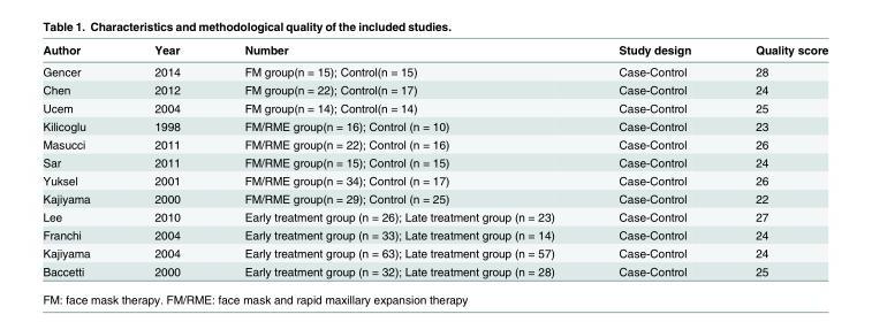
<table><thead><tr><td>Author</td><td>Year</td><td>Number</td><td>Study design</td><td>Quality score</td></tr></thead><tbody><tr><td>Gencer</td><td>2014</td><td>FM group(n = 15); Control(n = 15)</td><td>Case-Control</td><td>28</td></tr><tr><td>Chen</td><td>2012</td><td>FM group(n = 22); Control(n = 17)</td><td>Case-Control</td><td>24</td></tr><tr><td>Ucem</td><td>2004</td><td>FM group(n = 14); Control(n = 14)</td><td>Case-Control</td><td>25</td></tr><tr><td>Kilicoglu</td><td>1998</td><td>FM/RME group(n = 16); Control (n = 10)</td><td>Case-Control</td><td>23</td></tr><tr><td>Masucci</td><td>2011</td><td>FM/RME group(n = 22); Control (n = 16)</td><td>Case-Control</td><td>26</td></tr><tr><td>Sar</td><td>2011</td><td>FM/RME group(n = 15); Control (n = 15)</td><td>Case-Control</td><td>24</td></tr><tr><td>Yuksel</td><td>2001</td><td>FM/RME group(n = 34); Control (n = 17)</td><td>Case-Control</td><td>26</td></tr><tr><td>Kajiyama</td><td>2000</td><td>FM/RME group(n = 29); Control (n = 25)</td><td>Case-Control</td><td>22</td></tr><tr><td>Lee</td><td>2010</td><td>Early treatment group (n = 26); Late treatment group (n = 23)</td><td>Case-Control</td><td>27</td></tr><tr><td>Franchi</td><td>2004</td><td>Early treatment group (n = 33); Late treatment group (n = 14)</td><td>Case-Control</td><td>24</td></tr><tr><td>Kajiyama</td><td>2004</td><td>Early treatment group (n = 63); Late treatment group (n = 57)</td><td>Case-Control</td><td>24</td></tr><tr><td>Baccetti</td><td>2000</td><td>Early treatment group (n = 32); Late treatment group (n = 28)</td><td>Case-Control</td><td>25</td></tr></tbody></table>